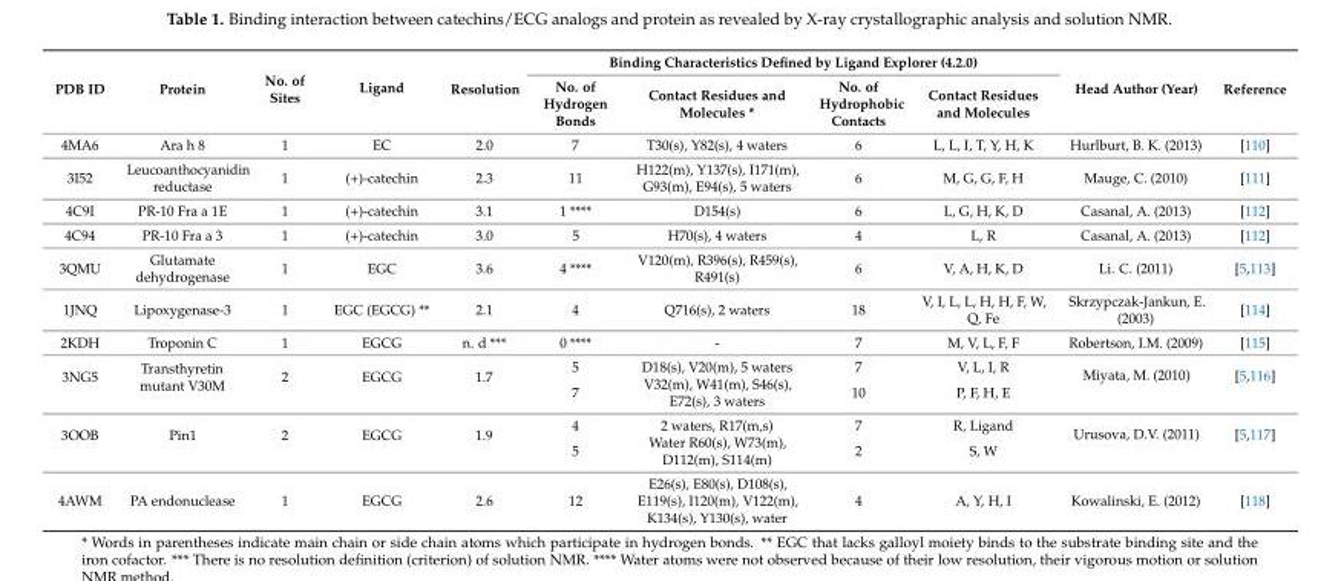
<table><thead><tr><td rowspan="2">PDB ID</td><td rowspan="2">Protein</td><td rowspan="2">No. of Sites</td><td rowspan="2">Ligand</td><td rowspan="2">Resolution</td><td colspan="4">Binding Characteristics Defined by Ligand Explorer (4.2.0)</td><td rowspan="2">Head Author (Year)</td><td rowspan="2">Reference</td></tr><tr><td>No. of Hydrogen Bonds</td><td>Contact Residues and Molecules *</td><td>No. of Hydrophobic Contacts</td><td>Contact Residues and Molecules</td></tr></thead><tbody><tr><td>4MA6</td><td>Ara h 8</td><td>1</td><td>EC</td><td>2.0</td><td>7</td><td>T30(s), Y82(s), 4 waters</td><td>6</td><td>L, L, I, T, Y, H, K</td><td>Hurlburt, B. K. (2013)</td><td>[110]</td></tr><tr><td>3I52</td><td>Leucoanthocyanidin reductase</td><td>1</td><td>(+)-catechin</td><td>2.3</td><td>11</td><td>H122(m), Y137(s), I171(m), G93(m), E94(s), 5 waters</td><td>6</td><td>M, G, G, F, H</td><td>Mauge, C. (2010)</td><td>[111]</td></tr><tr><td>4C9I</td><td>PR-10 Fra a 1E</td><td>1</td><td>(+)-catechin</td><td>3.1</td><td>1 ****</td><td>D154(s)</td><td>6</td><td>L, G, H, K, D</td><td>Casanal, A. (2013)</td><td>[112]</td></tr><tr><td>4C94</td><td>PR-10 Fra a 3</td><td>1</td><td>(+)-catechin</td><td>3.0</td><td>5</td><td>H70(s), 4 waters</td><td>4</td><td>L, R</td><td>Casanal, A. (2013)</td><td>[112]</td></tr><tr><td>3QMU</td><td>Glutamate dehydrogenase</td><td>1</td><td>EGC</td><td>3.6</td><td>4 ****</td><td>V120(m), R396(s), R459(s), R491(s)</td><td>6</td><td>V, A, H, K, D</td><td>Li. C. (2011)</td><td>[5,113]</td></tr><tr><td>1JNQ</td><td>Lipoxygenase-3</td><td>1</td><td>EGC (EGCG) **</td><td>2.1</td><td>4</td><td>Q716(s), 2 waters</td><td>18</td><td>V, I, L, L, H, H, F, W, Q, Fe</td><td>Skrzypczak-Jankun, E. (2003)</td><td>[114]</td></tr><tr><td>2KDH</td><td>Troponin C</td><td>1</td><td>EGCG</td><td>n. d ***</td><td>0 ****</td><td>-</td><td>7</td><td>M, V, L, F, F</td><td>Robertson, I.M. (2009)</td><td>[115]</td></tr><tr><td rowspan="2">3NG5</td><td rowspan="2">Transthyretin mutant V30M</td><td rowspan="2">2</td><td rowspan="2">EGCG</td><td rowspan="2">1.7</td><td>5</td><td>D18(s), V20(m), 5 waters</td><td>7</td><td>V, L, I, R</td><td rowspan="2">Miyata, M. (2010)</td><td rowspan="2">[5,116]</td></tr><tr><td>7</td><td>V32(m), W41(m), S46(s), E72(s), 3 waters</td><td>10</td><td>P, F, H, E</td></tr><tr><td rowspan="2">3OOB</td><td rowspan="2">Pin1</td><td rowspan="2">2</td><td rowspan="2">EGCG</td><td rowspan="2">1.9</td><td>4</td><td>2 waters, R17(m,s)</td><td>7</td><td>R, Ligand</td><td rowspan="2">Urusova, D.V. (2011)</td><td rowspan="2">[5,117]</td></tr><tr><td>5</td><td>Water R60(s), W73(m), D112(m), S114(m)</td><td>2</td><td>S, W</td></tr><tr><td>4AWM</td><td>PA endonuclease</td><td>1</td><td>EGCG</td><td>2.6</td><td>12</td><td>E26(s), E80(s), D108(s), E119(s), I120(m), V122(m), K134(s), Y130(s), water</td><td>4</td><td>A, Y, H, I</td><td>Kowalinski, E. (2012)</td><td>[118]</td></tr></tbody></table>